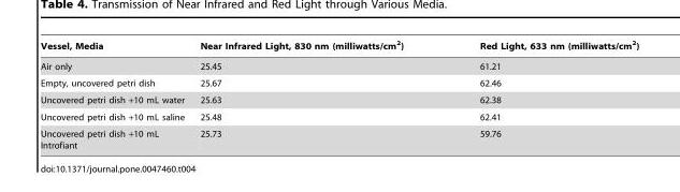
<table><thead><tr><td>Vessel, Media</td><td>Near Infrared Light, 830 nm (milliwatts/cm<sup>2</sup>)</td><td>Red Light, 633 nm (milliwatts/cm<sup>2</sup>)</td></tr></thead><tbody><tr><td>Air only</td><td>25.45</td><td>61.21</td></tr><tr><td>Empty, uncovered petri dish</td><td>25.67</td><td>62.46</td></tr><tr><td>Uncovered petri dish +10 mL water</td><td>25.63</td><td>62.38</td></tr><tr><td>Uncovered petri dish +10 mL saline</td><td>25.48</td><td>62.41</td></tr><tr><td>Uncovered petri dish +10 mL Introfiant</td><td>25.73</td><td>59.76</td></tr></tbody></table>